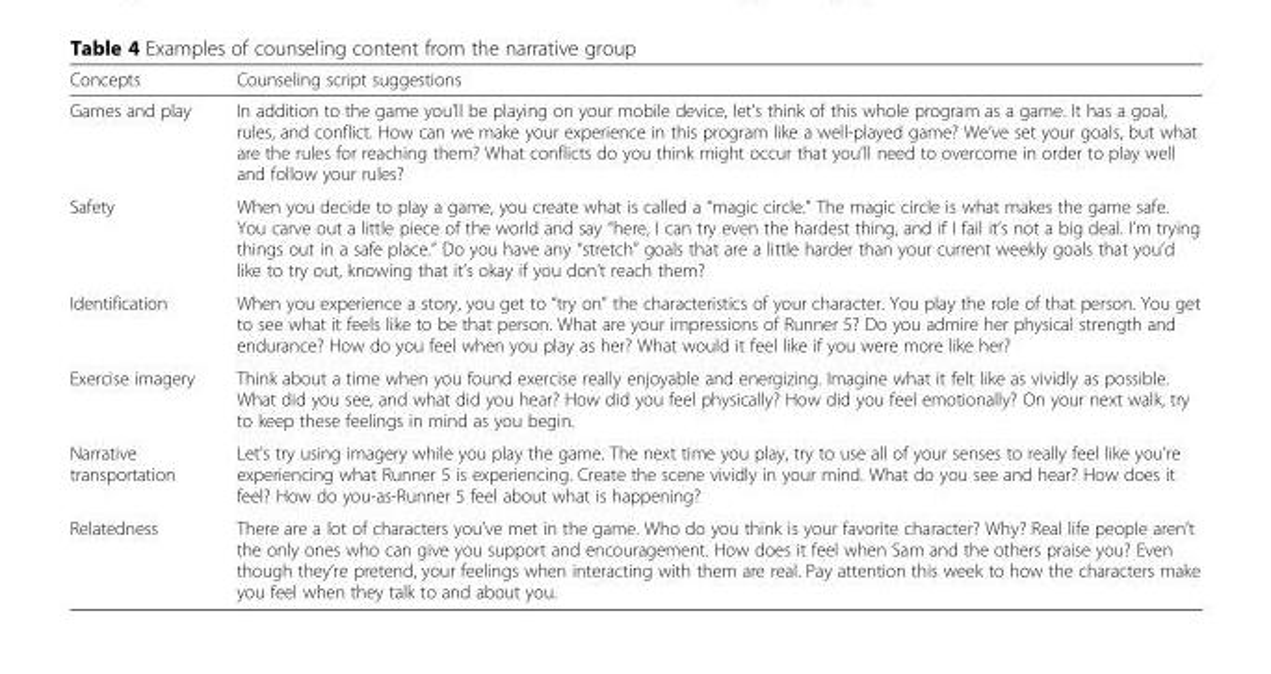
<table><thead><tr><td>Concepts</td><td>Counseling script suggestions</td></tr></thead><tbody><tr><td>Games and play</td><td>In addition to the game you’ll be playing on your mobile device, let’s think of this whole program as a game. It has a goal, rules, and conflict. How can we make your experience in this program like a well-played game? We’ve set your goals, but what are the rules for reaching them? What conflicts do you think might occur that you’ll need to overcome in order to play well and follow your rules?</td></tr><tr><td>Safety</td><td>When you decide to play a game, you create what is called a “magic circle.” The magic circle is what makes the game safe. You carve out a little piece of the world and say “here, I can try even the hardest thing, and if I fail it’s not a big deal. I’m trying things out in a safe place.” Do you have any “stretch” goals that are a little harder than your current weekly goals that you’d like to try out, knowing that it’s okay if you don’t reach them?</td></tr><tr><td>Identification</td><td>When you experience a story, you get to “try on” the characteristics of your character. You play the role of that person. You get to see what it feels like to be that person. What are your impressions of Runner 5? Do you admire her physical strength and endurance? How do you feel when you play as her? What would it feel like if you were more like her?</td></tr><tr><td>Exercise imagery</td><td>Think about a time when you found exercise really enjoyable and energizing. Imagine what it felt like as vividly as possible. What did you see, and what did you hear? How did you feel physically? How did you feel emotionally? On your next walk, try to keep these feelings in mind as you begin.</td></tr><tr><td>Narrative transportation</td><td>Let’s try using imagery while you play the game. The next time you play, try to use all of your senses to really feel like you’re experiencing what Runner 5 is experiencing. Create the scene vividly in your mind. What do you see and hear? How does it feel? How do you-as-Runner 5 feel about what is happening?</td></tr><tr><td>Relatedness</td><td>There are a lot of characters you’ve met in the game. Who do you think is your favorite character? Why? Real life people aren’t the only ones who can give you support and encouragement. How does it feel when Sam and the others praise you? Even though they’re pretend, your feelings when interacting with them are real. Pay attention this week to how the characters make you feel when they talk to and about you.</td></tr></tbody></table>